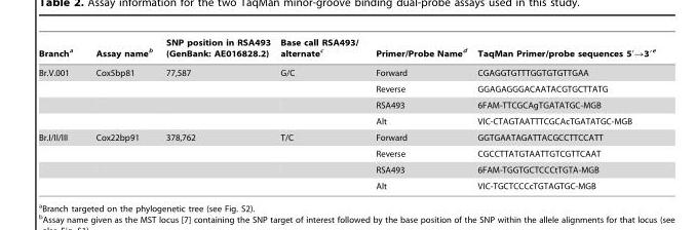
<table><thead><tr><td>Branch<sup>a</sup></td><td>Assay name<sup>b</sup></td><td>SNP position in RSA493 (GenBank: AE016828.2)</td><td>Base call RSA493/ alternate<sup>c</sup></td><td>Primer/Probe Name<sup>d</sup></td><td>TaqMan Primer/probe sequences 5′→3′<sup>e</sup></td></tr></thead><tbody><tr><td rowspan="4">Br.V.001</td><td>Cox5bp81</td><td>77,587</td><td>G/C</td><td>Forward</td><td>CGAGGTGTTTGGTGTGTTGAA</td></tr><tr><td></td><td></td><td></td><td>Reverse</td><td>GGAGAGGGACAATACGTGCTTATG</td></tr><tr><td></td><td></td><td></td><td>RSA493</td><td>6FAM-TTCGCAgTGATATGC-MGB</td></tr><tr><td></td><td></td><td></td><td>Alt</td><td>VIC-CTAGTAATTTCGCAcTGATATGC-MGB</td></tr><tr><td rowspan="4">Br.I/II/III</td><td>Cox22bp91</td><td>378,762</td><td>T/C</td><td>Forward</td><td>GGTGAATAGATTACGCCTTCCATT</td></tr><tr><td></td><td></td><td></td><td>Reverse</td><td>CGCCTTATGTAATTGTCGTTCAAT</td></tr><tr><td></td><td></td><td></td><td>RSA493</td><td>6FAM-TGGTGCTCCCtTGTA-MGB</td></tr><tr><td></td><td></td><td></td><td>Alt</td><td>VIC-TGCTCCCcTGTAGTGC-MGB</td></tr></tbody></table>